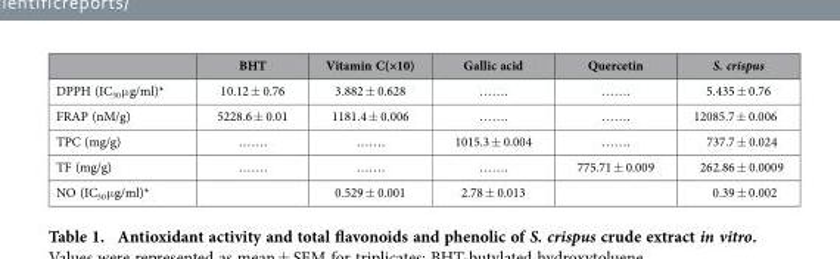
<table><thead><tr><td></td><td>BHT</td><td>Vitamin C(×10)</td><td>Gallic acid</td><td>Quercetin</td><td>S. crispus</td></tr></thead><tbody><tr><td>DPPH (IC<sub>50</sub> μ g/ml)*</td><td>10.12 ± 0.76</td><td>3.882 ± 0.628</td><td>…….</td><td>…….</td><td>5.435 ± 0.76</td></tr><tr><td>FRAP (nM/g)</td><td>5228.6 ± 0.01</td><td>1181.4 ± 0.006</td><td>…….</td><td>…….</td><td>12085.7 ± 0.006</td></tr><tr><td>TPC (mg/g)</td><td>…….</td><td>…….</td><td>1015.3 ± 0.004</td><td>…….</td><td>737.7 ± 0.024</td></tr><tr><td>TF (mg/g)</td><td>…….</td><td>…….</td><td>…….</td><td>775.71 ± 0.009</td><td>262.86 ± 0.0009</td></tr><tr><td>NO (IC<sub>50</sub> μ g/ml)*</td><td></td><td>0.529 ± 0.001</td><td>2.78 ± 0.013</td><td></td><td>0.39 ± 0.002</td></tr></tbody></table>